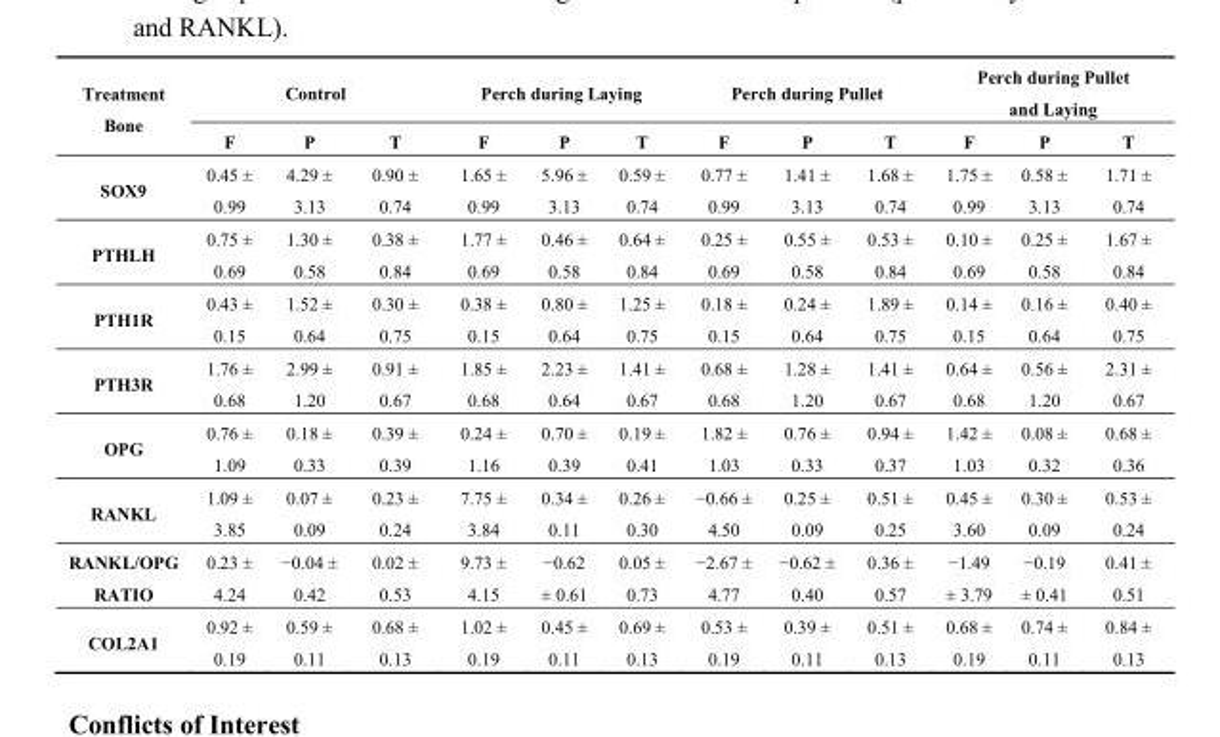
<table><thead><tr><td rowspan="2">Treatment Bone</td><td colspan="3">Control</td><td colspan="3">Perch during Laying</td><td colspan="3">Perch during Pullet</td><td colspan="3">Perch during Pullet and Laying</td></tr><tr><td>F</td><td>P</td><td>T</td><td>F</td><td>P</td><td>T</td><td>F</td><td>P</td><td>T</td><td>F</td><td>P</td><td>T</td></tr></thead><tbody><tr><td>SOX9</td><td>0.45 ± 0.99</td><td>4.29 ± 3.13</td><td>0.90 ± 0.74</td><td>1.65 ± 0.99</td><td>5.96 ± 3.13</td><td>0.59 ± 0.74</td><td>0.77 ± 0.99</td><td>1.41 ± 3.13</td><td>1.68 ± 0.74</td><td>1.75 ± 0.99</td><td>0.58 ± 3.13</td><td>1.71 ± 0.74</td></tr><tr><td>PTHLH</td><td>0.75 ± 0.69</td><td>1.30 ± 0.58</td><td>0.38 ± 0.84</td><td>1.77 ± 0.69</td><td>0.46 ± 0.58</td><td>0.64 ± 0.84</td><td>0.25 ± 0.69</td><td>0.55 ± 0.58</td><td>0.53 ± 0.84</td><td>0.10 ± 0.69</td><td>0.25 ± 0.58</td><td>1.67 ± 0.84</td></tr><tr><td>PTH1R</td><td>0.43 ± 0.15</td><td>1.52 ± 0.64</td><td>0.30 ± 0.75</td><td>0.38 ± 0.15</td><td>0.80 ± 0.64</td><td>1.25 ± 0.75</td><td>0.18 ± 0.15</td><td>0.24 ± 0.64</td><td>1.89 ± 0.75</td><td>0.14 ± 0.15</td><td>0.16 ± 0.64</td><td>0.40 ± 0.75</td></tr><tr><td>PTH3R</td><td>1.76 ± 0.68</td><td>2.99 ± 1.20</td><td>0.91 ± 0.67</td><td>1.85 ± 0.68</td><td>2.23 ± 0.64</td><td>1.41 ± 0.67</td><td>0.68 ± 0.68</td><td>1.28 ± 1.20</td><td>1.41 ± 0.67</td><td>0.64 ± 0.68</td><td>0.56 ± 1.20</td><td>2.31 ± 0.67</td></tr><tr><td>OPG</td><td>0.76 ± 1.09</td><td>0.18 ± 0.33</td><td>0.39 ± 0.39</td><td>0.24 ± 1.16</td><td>0.70 ± 0.39</td><td>0.19 ± 0.41</td><td>1.82 ± 1.03</td><td>0.76 ± 0.33</td><td>0.94 ± 0.37</td><td>1.42 ± 1.03</td><td>0.08 ± 0.32</td><td>0.68 ± 0.36</td></tr><tr><td>RANKL</td><td>1.09 ± 3.85</td><td>0.07 ± 0.09</td><td>0.23 ± 0.24</td><td>7.75 ± 3.84</td><td>0.34 ± 0.11</td><td>0.26 ± 0.30</td><td>−0.66 ± 4.50</td><td>0.25 ± 0.09</td><td>0.51 ± 0.25</td><td>0.45 ± 3.60</td><td>0.30 ± 0.09</td><td>0.53 ± 0.24</td></tr><tr><td>RANKL/OPG RATIO</td><td>0.23 ± 4.24</td><td>−0.04 ± 0.42</td><td>0.02 ± 0.53</td><td>9.73 ± 4.15</td><td>−0.62 ± 0.61</td><td>0.05 ± 0.73</td><td>−2.67 ± 4.77</td><td>−0.62 ± 0.40</td><td>0.36 ± 0.57</td><td>−1.49 ± 3.79</td><td>−0.19 ± 0.41</td><td>0.41 ± 0.51</td></tr><tr><td>COL2A1</td><td>0.92 ± 0.19</td><td>0.59 ± 0.11</td><td>0.68 ± 0.13</td><td>1.02 ± 0.19</td><td>0.45 ± 0.11</td><td>0.69 ± 0.13</td><td>0.53 ± 0.19</td><td>0.39 ± 0.11</td><td>0.51 ± 0.13</td><td>0.68 ± 0.19</td><td>0.74 ± 0.11</td><td>0.84 ± 0.13</td></tr></tbody></table>